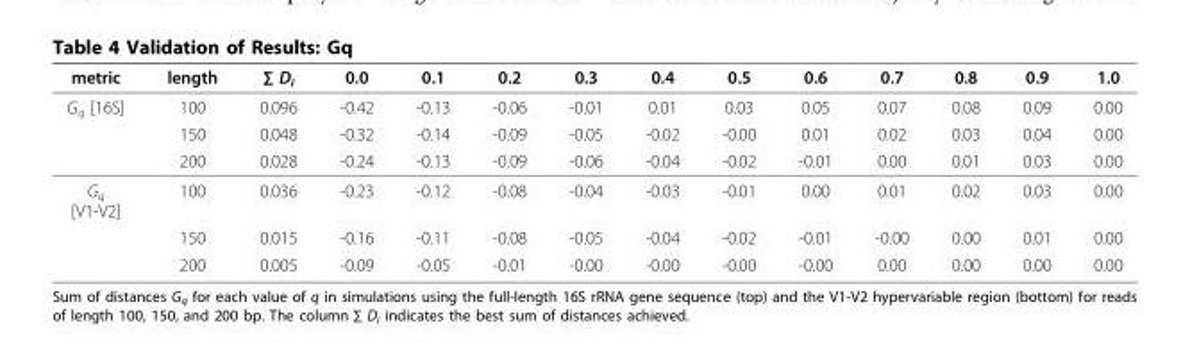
<table><thead><tr><td>metric</td><td>length</td><td>∑ D<sub>i</sub></td><td>0.0</td><td>0.1</td><td>0.2</td><td>0.3</td><td>0.4</td><td>0.5</td><td>0.6</td><td>0.7</td><td>0.8</td><td>0.9</td><td>1.0</td></tr></thead><tbody><tr><td rowspan="3">G<sub>q</sub> [16S]</td><td>100</td><td>0.096</td><td>-0.42</td><td>-0.13</td><td>-0.06</td><td>-0.01</td><td>0.01</td><td>0.03</td><td>0.05</td><td>0.07</td><td>0.08</td><td>0.09</td><td>0.00</td></tr><tr><td>150</td><td>0.048</td><td>-0.32</td><td>-0.14</td><td>-0.09</td><td>-0.05</td><td>-0.02</td><td>-0.00</td><td>0.01</td><td>0.02</td><td>0.03</td><td>0.04</td><td>0.00</td></tr><tr><td>200</td><td>0.028</td><td>-0.24</td><td>-0.13</td><td>-0.09</td><td>-0.06</td><td>-0.04</td><td>-0.02</td><td>-0.01</td><td>0.00</td><td>0.01</td><td>0.03</td><td>0.00</td></tr><tr><td rowspan="3">G<sub>q</sub> [V1-V2]</td><td>100</td><td>0.036</td><td>-0.23</td><td>-0.12</td><td>-0.08</td><td>-0.04</td><td>-0.03</td><td>-0.01</td><td>0.00</td><td>0.01</td><td>0.02</td><td>0.03</td><td>0.00</td></tr><tr><td>150</td><td>0.015</td><td>-0.16</td><td>-0.11</td><td>-0.08</td><td>-0.05</td><td>-0.04</td><td>-0.02</td><td>-0.01</td><td>-0.00</td><td>0.00</td><td>0.01</td><td>0.00</td></tr><tr><td>200</td><td>0.005</td><td>-0.09</td><td>-0.05</td><td>-0.01</td><td>-0.00</td><td>-0.00</td><td>-0.00</td><td>-0.00</td><td>0.00</td><td>0.00</td><td>0.00</td><td>0.00</td></tr></tbody></table>